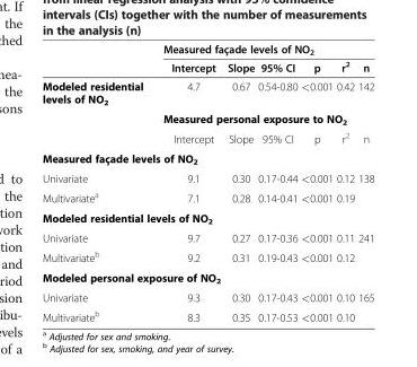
<table><thead><tr><td rowspan="2"></td><td colspan="6">Measured façade levels of NO<sub>2</sub></td></tr><tr><td>Intercept</td><td>Slope</td><td>95% CI</td><td>p</td><td>r<sup>2</sup></td><td>n</td></tr></thead><tbody><tr><td rowspan="3">Modeled residential levels of NO<sub>2</sub></td><td>4.7</td><td>0.67</td><td>0.54-0.80</td><td>&lt;0.001</td><td>0.42</td><td>142</td></tr><tr><td colspan="6">Measured personal exposure to NO<sub>2</sub></td></tr><tr><td>Intercept</td><td>Slope</td><td>95% CI</td><td>p</td><td>r<sup>2</sup></td><td>n</td></tr><tr><td colspan="7">Measured façade levels of NO<sub>2</sub></td></tr><tr><td>Univariate</td><td>9.1</td><td>0.30</td><td>0.17-0.44</td><td>&lt;0.001</td><td>0.12</td><td rowspan="2">138</td></tr><tr><td>Multivariate<sup>a</sup></td><td>7.1</td><td>0.28</td><td>0.14-0.41</td><td>&lt;0.001</td><td>0.19</td></tr><tr><td colspan="7">Modeled residential levels of NO<sub>2</sub></td></tr><tr><td>Univariate</td><td>9.7</td><td>0.27</td><td>0.17-0.36</td><td>&lt;0.001</td><td>0.11</td><td rowspan="2">241</td></tr><tr><td>Multivariate<sup>b</sup></td><td>9.2</td><td>0.31</td><td>0.19-0.43</td><td>&lt;0.001</td><td>0.12</td></tr><tr><td colspan="7">Modeled personal exposure of NO<sub>2</sub></td></tr><tr><td>Univariate</td><td>9.3</td><td>0.30</td><td>0.17-0.43</td><td>&lt;0.001</td><td>0.10</td><td>165</td></tr><tr><td>Multivariate<sup>b</sup></td><td>8.3</td><td>0.35</td><td>0.17-0.53</td><td>&lt;0.001</td><td>0.10</td><td></td></tr></tbody></table>